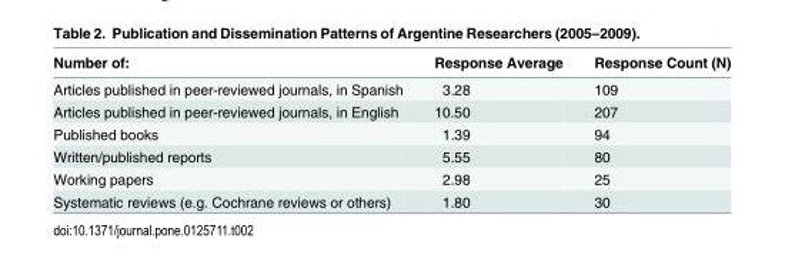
<table><thead><tr><td>Number of:</td><td>Response Average</td><td>Response Count (N)</td></tr></thead><tbody><tr><td>Articles published in peer-reviewed journals, in Spanish</td><td>3.28</td><td>109</td></tr><tr><td>Articles published in peer-reviewed journals, in English</td><td>10.50</td><td>207</td></tr><tr><td>Published books</td><td>1.39</td><td>94</td></tr><tr><td>Written/published reports</td><td>5.55</td><td>80</td></tr><tr><td>Working papers</td><td>2.98</td><td>25</td></tr><tr><td>Systematic reviews (e.g. Cochrane reviews or others)</td><td>1.80</td><td>30</td></tr></tbody></table>